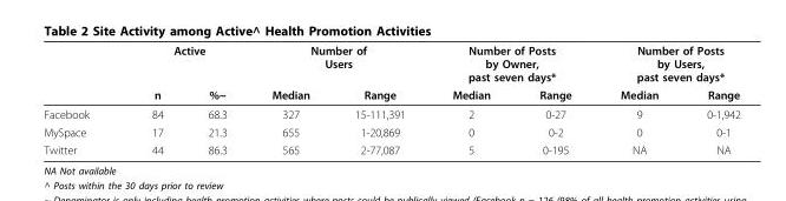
<table><thead><tr><td rowspan="2"></td><td colspan="2">Active</td><td colspan="2">Number of Users</td><td colspan="2">Number of Posts by Owner, past seven days*</td><td colspan="2">Number of Posts by Users, past seven days*</td></tr><tr><td>n</td><td>%~</td><td>Median</td><td>Range</td><td>Median</td><td>Range</td><td>Median</td><td>Range</td></tr></thead><tbody><tr><td>Facebook</td><td>84</td><td>68.3</td><td>327</td><td>15-111,391</td><td>2</td><td>0-27</td><td>9</td><td>0-1,942</td></tr><tr><td>MySpace</td><td>17</td><td>21.3</td><td>655</td><td>1-20,869</td><td>0</td><td>0-2</td><td>0</td><td>0-1</td></tr><tr><td>Twitter</td><td>44</td><td>86.3</td><td>565</td><td>2-77,087</td><td>5</td><td>0-195</td><td>NA</td><td>NA</td></tr></tbody></table>